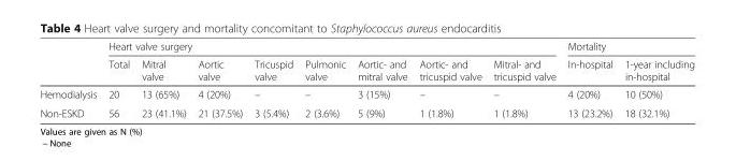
<table><thead><tr><td rowspan="2"></td><td colspan="8">Heart valve surgery</td><td colspan="2">Mortality</td></tr><tr><td>Total</td><td>Mitral valve</td><td>Aortic valve</td><td>Tricuspid valve</td><td>Pulmonic valve</td><td>Aortic- and mitral valve</td><td>Aortic- and tricuspid valve</td><td>Mitral- and tricuspid valve</td><td>In-hospital</td><td>1-year including in-hospital</td></tr></thead><tbody><tr><td>Hemodialysis</td><td>20</td><td>13 (65%)</td><td>4 (20%)</td><td>–</td><td>–</td><td>3 (15%)</td><td>–</td><td>–</td><td>4 (20%)</td><td>10 (50%)</td></tr><tr><td>Non-ESKD</td><td>56</td><td>23 (41.1%)</td><td>21 (37.5%)</td><td>3 (5.4%)</td><td>2 (3.6%)</td><td>5 (9%)</td><td>1 (1.8%)</td><td>1 (1.8%)</td><td>13 (23.2%)</td><td>18 (32.1%)</td></tr></tbody></table>